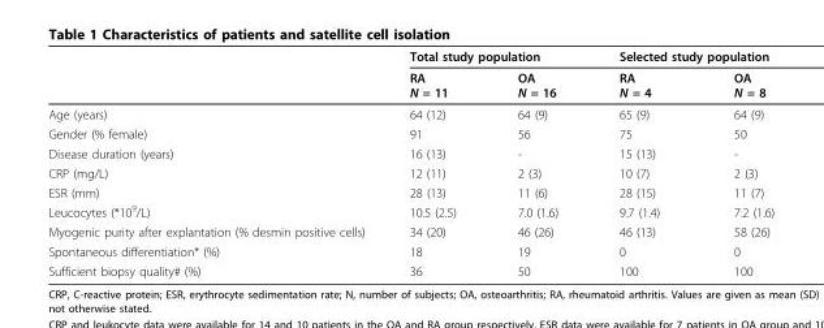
<table><thead><tr><td rowspan="2"></td><td colspan="2">Total study population</td><td colspan="2">Selected study population</td></tr><tr><td>RA N = 11</td><td>OA N = 16</td><td>RA N = 4</td><td>OA N = 8</td></tr></thead><tbody><tr><td>Age (years)</td><td>64 (12)</td><td>64 (9)</td><td>65 (9)</td><td>64 (9)</td></tr><tr><td>Gender (% female)</td><td>91</td><td>56</td><td>75</td><td>50</td></tr><tr><td>Disease duration (years)</td><td>16 (13)</td><td>-</td><td>15 (13)</td><td>-</td></tr><tr><td>CRP (mg/L)</td><td>12 (11)</td><td>2 (3)</td><td>10 (7)</td><td>2 (3)</td></tr><tr><td>ESR (mm)</td><td>28 (13)</td><td>11 (6)</td><td>28 (15)</td><td>11 (7)</td></tr><tr><td>Leucocytes (*10<sup>9</sup>/L)</td><td>10.5 (2.5)</td><td>7.0 (1.6)</td><td>9.7 (1.4)</td><td>7.2 (1.6)</td></tr><tr><td>Myogenic purity after explantation (% desmin positive cells)</td><td>34 (20)</td><td>46 (26)</td><td>46 (13)</td><td>58 (26)</td></tr><tr><td>Spontaneous differentiation* (%)</td><td>18</td><td>19</td><td>0</td><td>0</td></tr><tr><td>Sufficient biopsy quality# (%)</td><td>36</td><td>50</td><td>100</td><td>100</td></tr></tbody></table>